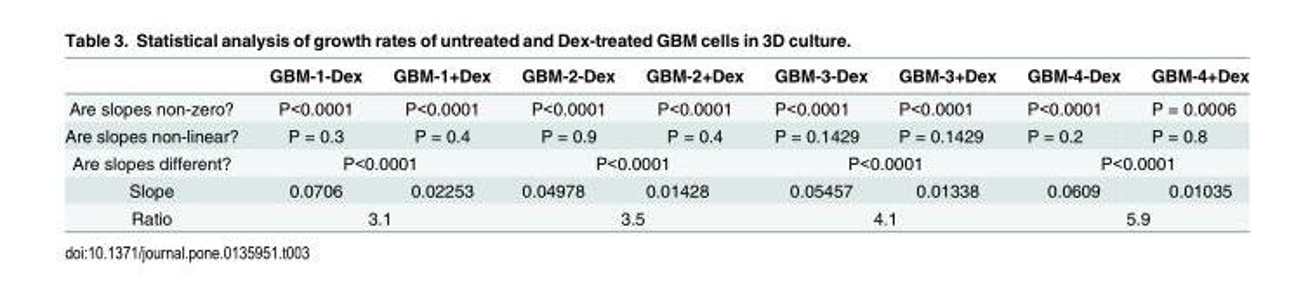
<table><thead><tr><td></td><td>GBM-1-Dex</td><td>GBM-1+Dex</td><td>GBM-2-Dex</td><td>GBM-2+Dex</td><td>GBM-3-Dex</td><td>GBM-3+Dex</td><td>GBM-4-Dex</td><td>GBM-4+Dex</td></tr></thead><tbody><tr><td>Are slopes non-zero?</td><td>P&lt;0.0001</td><td>P&lt;0.0001</td><td>P&lt;0.0001</td><td>P&lt;0.0001</td><td>P&lt;0.0001</td><td>P&lt;0.0001</td><td>P&lt;0.0001</td><td>P = 0.0006</td></tr><tr><td>Are slopes non-linear?</td><td>P = 0.3</td><td>P = 0.4</td><td>P = 0.9</td><td>P = 0.4</td><td>P = 0.1429</td><td>P = 0.1429</td><td>P = 0.2</td><td>P = 0.8</td></tr><tr><td>Are slopes different?</td><td colspan="2">P&lt;0.0001</td><td colspan="2">P&lt;0.0001</td><td colspan="2">P&lt;0.0001</td><td colspan="2">P&lt;0.0001</td></tr><tr><td>Slope</td><td>0.0706</td><td>0.02253</td><td>0.04978</td><td>0.01428</td><td>0.05457</td><td>0.01338</td><td>0.0609</td><td>0.01035</td></tr><tr><td>Ratio</td><td colspan="2">3.1</td><td colspan="2">3.5</td><td colspan="2">4.1</td><td colspan="2">5.9</td></tr></tbody></table>